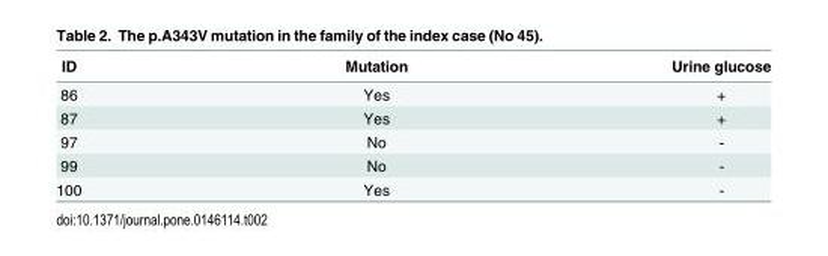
<table><thead><tr><td>ID</td><td>Mutation</td><td>Urine glucose</td></tr></thead><tbody><tr><td>86</td><td>Yes</td><td>+</td></tr><tr><td>87</td><td>Yes</td><td>+</td></tr><tr><td>97</td><td>No</td><td>-</td></tr><tr><td>99</td><td>No</td><td>-</td></tr><tr><td>100</td><td>Yes</td><td>-</td></tr></tbody></table>